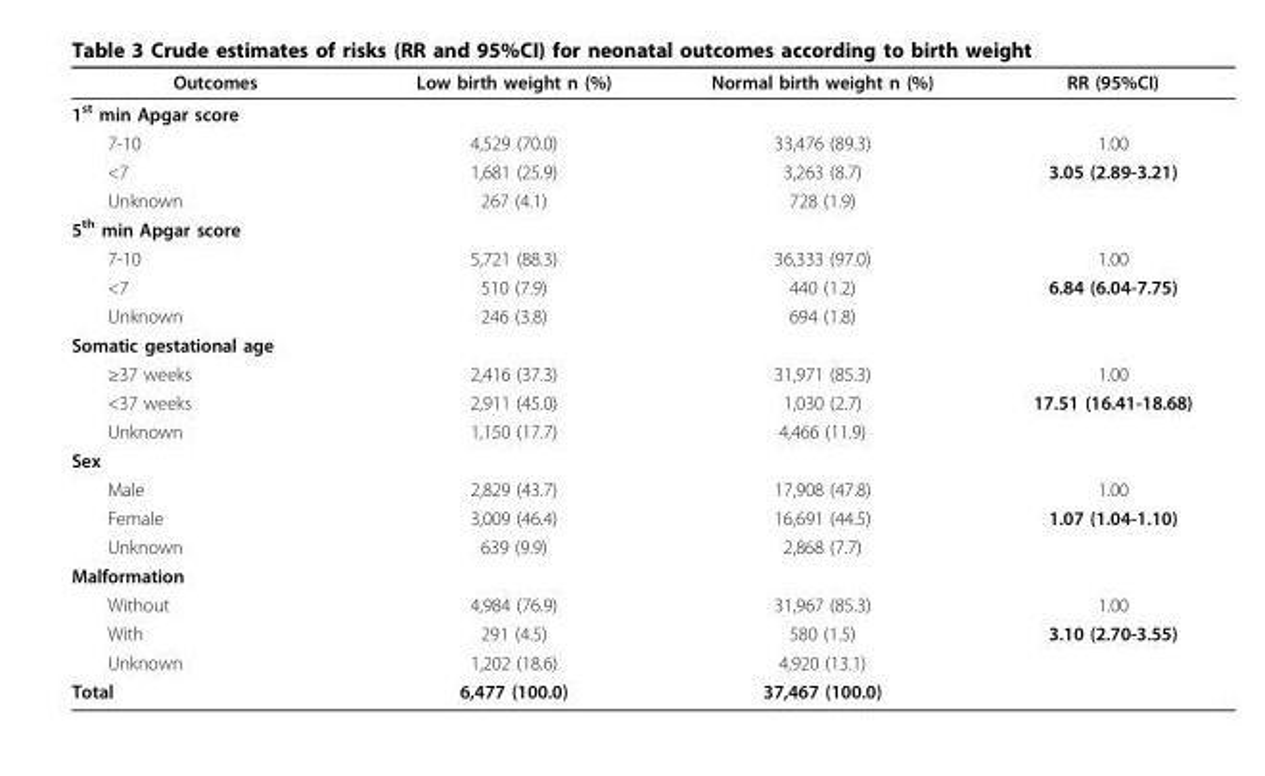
<table><thead><tr><td>Outcomes</td><td>Low birth weight n (%)</td><td>Normal birth weight n (%)</td><td>RR (95%CI)</td></tr></thead><tbody><tr><td colspan="4">1<sup>st</sup> min Apgar score</td></tr><tr><td>7-10</td><td>4,529 (70.0)</td><td>33,476 (89.3)</td><td>1.00</td></tr><tr><td>&lt;7</td><td>1,681 (25.9)</td><td>3,263 (8.7)</td><td>3.05 (2.89-3.21)</td></tr><tr><td>Unknown</td><td>267 (4.1)</td><td>728 (1.9)</td><td></td></tr><tr><td colspan="4">5<sup>th</sup> min Apgar score</td></tr><tr><td>7-10</td><td>5,721 (88.3)</td><td>36,333 (97.0)</td><td>1.00</td></tr><tr><td>&lt;7</td><td>510 (7.9)</td><td>440 (1.2)</td><td>6.84 (6.04-7.75)</td></tr><tr><td>Unknown</td><td>246 (3.8)</td><td>694 (1.8)</td><td></td></tr><tr><td colspan="4">Somatic gestational age</td></tr><tr><td>≥37 weeks</td><td>2,416 (37.3)</td><td>31,971 (85.3)</td><td>1.00</td></tr><tr><td>&lt;37 weeks</td><td>2,911 (45.0)</td><td>1,030 (2.7)</td><td>17.51 (16.41-18.68)</td></tr><tr><td>Unknown</td><td>1,150 (17.7)</td><td>4,466 (11.9)</td><td></td></tr><tr><td colspan="4">Sex</td></tr><tr><td>Male</td><td>2,829 (43.7)</td><td>17,908 (47.8)</td><td>1.00</td></tr><tr><td>Female</td><td>3,009 (46.4)</td><td>16,691 (44.5)</td><td>1.07 (1.04-1.10)</td></tr><tr><td>Unknown</td><td>639 (9.9)</td><td>2,868 (7.7)</td><td></td></tr><tr><td colspan="4">Malformation</td></tr><tr><td>Without</td><td>4,984 (76.9)</td><td>31,967 (85.3)</td><td>1.00</td></tr><tr><td>With</td><td>291 (4.5)</td><td>580 (1.5)</td><td>3.10 (2.70-3.55)</td></tr><tr><td>Unknown</td><td>1,202 (18.6)</td><td>4,920 (13.1)</td><td></td></tr><tr><td>Total</td><td>6,477 (100.0)</td><td>37,467 (100.0)</td><td></td></tr></tbody></table>